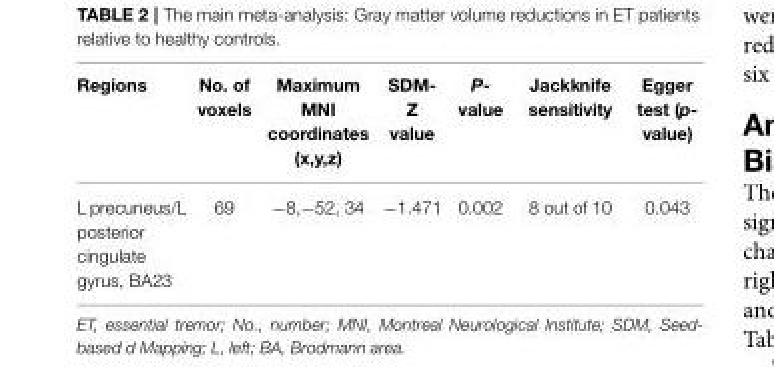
<table><thead><tr><td>Regions</td><td>No. of voxels</td><td>Maximum MNI coordinates (x,y,z)</td><td>SDM- Z value</td><td>P- value</td><td>Jackknife sensitivity</td><td>Egger test (p- value)</td></tr></thead><tbody><tr><td>L precuneus/L posterior cingulate gyrus, BA23</td><td>69</td><td>−8,−52, 34</td><td>−1.471</td><td>0.002</td><td>8 out of 10</td><td>0.043</td></tr></tbody></table>